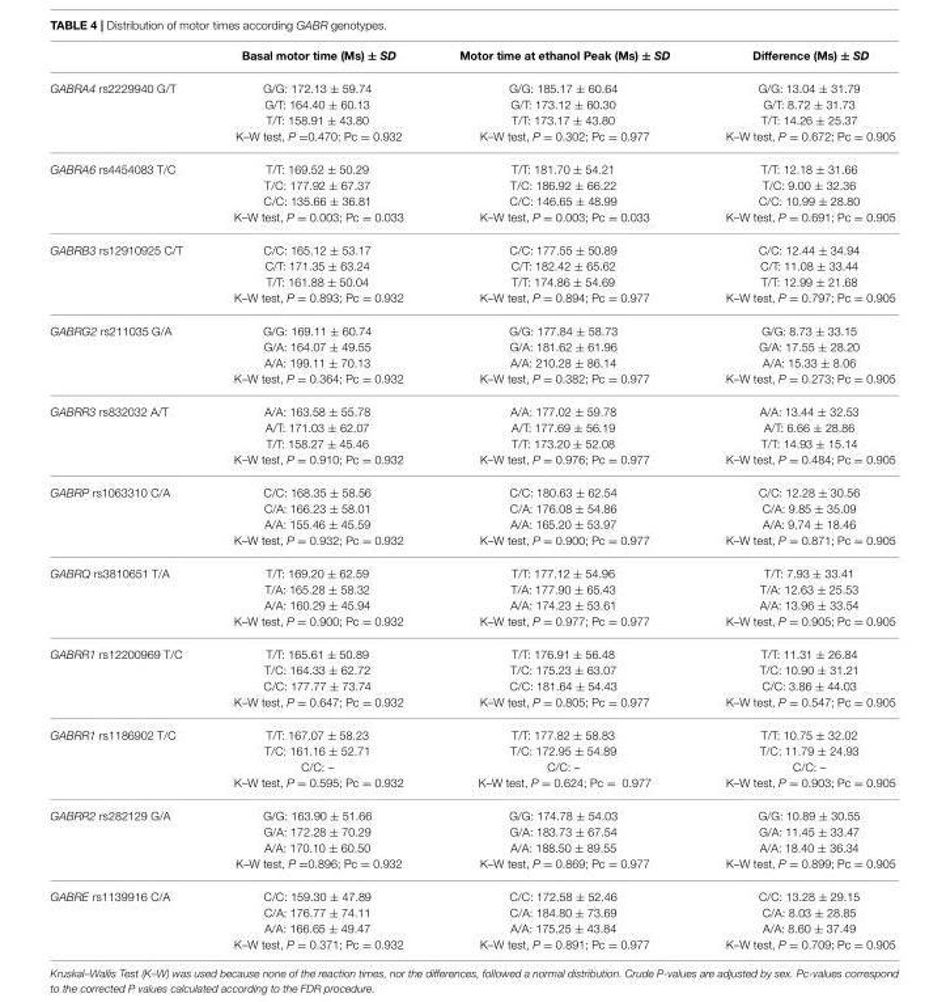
<table><thead><tr><td></td><td>Basal motor time (Ms) ± SD</td><td>Motor time at ethanol Peak (Ms) ± SD</td><td>Difference (Ms) ± SD</td></tr></thead><tbody><tr><td>GABRA4 rs2229940 G/T</td><td>G/G: 172.13 ± 59.74 G/T: 164.40 ± 60.13 T/T: 158.91 ± 43.80 K–W test, P =0.470; Pc = 0.932</td><td>G/G: 185.17 ± 60.64 G/T: 173.12 ± 60.30 T/T: 173.17 ± 43.80 K–W test, P = 0.302; Pc = 0.977</td><td>G/G: 13.04 ± 31.79 G/T: 8.72 ± 31.73 T/T: 14.26 ± 25.37 K–W test, P = 0.672; Pc = 0.905</td></tr><tr><td>GABRA6 rs4454083 T/C</td><td>T/T: 169.52 ± 50.29 T/C: 177.92 ± 67.37 C/C: 135.66 ± 36.81 K–W test, P = 0.003; Pc = 0.033</td><td>T/T: 181.70 ± 54.21 T/C: 186.92 ± 66.22 C/C: 146.65 ± 48.99 K–W test, P = 0.003; Pc = 0.033</td><td>T/T: 12.18 ± 31.66 T/C: 9.00 ± 32.36 C/C: 10.99 ± 28.80 K–W test, P = 0.691; Pc = 0.905</td></tr><tr><td>GABRB3 rs12910925 C/T</td><td>C/C: 165.12 ± 53.17 C/T: 171.35 ± 63.24 T/T: 161.88 ± 50.04 K–W test, P = 0.893; Pc = 0.932</td><td>C/C: 177.55 ± 50.89 C/T: 182.42 ± 65.62 T/T: 174.86 ± 54.69 K–W test, P = 0.894; Pc = 0.977</td><td>C/C: 12.44 ± 34.94 C/T: 11.08 ± 33.44 T/T: 12.99 ± 21.68 K–W test, P = 0.797; Pc = 0.905</td></tr><tr><td>GABRG2 rs211035 G/A</td><td>G/G: 169.11 ± 60.74 G/A: 164.07 ± 49.55 A/A: 199.11 ± 70.13 K–W test, P = 0.364; Pc = 0.932</td><td>G/G: 177.84 ± 58.73 G/A: 181.62 ± 61.96 A/A: 210.28 ± 86.14 K–W test, P = 0.382; Pc = 0.977</td><td>G/G: 8.73 ± 33.15 G/A: 17.55 ± 28.20 A/A: 15.33 ± 8.06 K–W test, P = 0.273; Pc = 0.905</td></tr><tr><td>GABRR3 rs832032 A/T</td><td>A/A: 163.58 ± 55.78 A/T: 171.03 ± 62.07 T/T: 158.27 ± 45.46 K–W test, P = 0.910; Pc = 0.932</td><td>A/A: 177.02 ± 59.78 A/T: 177.69 ± 56.19 T/T: 173.20 ± 52.08 K–W test, P = 0.976; Pc = 0.977</td><td>A/A: 13.44 ± 32.53 A/T: 6.66 ± 28.86 T/T: 14.93 ± 15.14 K–W test, P = 0.484; Pc = 0.905</td></tr><tr><td>GABRP rs1063310 C/A</td><td>C/C: 168.35 ± 58.56 C/A: 166.23 ± 58.01 A/A: 155.46 ± 45.59 K–W test, P = 0.932; Pc = 0.932</td><td>C/C: 180.63 ± 62.54 C/A: 176.08 ± 54.86 A/A: 165.20 ± 53.97 K–W test, P = 0.900; Pc = 0.977</td><td>C/C: 12.28 ± 30.56 C/A: 9.85 ± 35.09 A/A: 9.74 ± 18.46 K–W test, P = 0.871; Pc = 0.905</td></tr><tr><td>GABRQ rs3810651 T/A</td><td>T/T: 169.20 ± 62.59 T/A: 165.28 ± 58.32 A/A: 160.29 ± 45.94 K–W test, P = 0.900; Pc = 0.932</td><td>T/T: 177.12 ± 54.96 T/A: 177.90 ± 65.43 A/A: 174.23 ± 53.61 K–W test, P = 0.977; Pc = 0.977</td><td>T/T: 7.93 ± 33.41 T/A: 12.63 ± 25.53 A/A: 13.96 ± 33.54 K–W test, P = 0.905; Pc = 0.905</td></tr><tr><td>GABRR1 rs12200969 T/C</td><td>T/T: 165.61 ± 50.89 T/C: 164.33 ± 62.72 C/C: 177.77 ± 73.74 K–W test, P = 0.647; Pc = 0.932</td><td>T/T: 176.91 ± 56.48 T/C: 175.23 ± 63.07 C/C: 181.64 ± 54.43 K–W test, P = 0.805; Pc = 0.977</td><td>T/T: 11.31 ± 26.84 T/C: 10.90 ± 31.21 C/C: 3.86 ± 44.03 K–W test, P = 0.547; Pc = 0.905</td></tr><tr><td>GABRR1 rs1186902 T/C</td><td>T/T: 167.07 ± 58.23 T/C: 161.16 ± 52.71 C/C: – K–W test, P = 0.595; Pc = 0.932</td><td>T/T: 177.82 ± 58.83 T/C: 172.95 ± 54.89 C/C: – K–W test, P = 0.624; Pc = 0.977</td><td>T/T: 10.75 ± 32.02 T/C: 11.79 ± 24.93 C/C: – K–W test, P = 0.903; Pc = 0.905</td></tr><tr><td>GABRR2 rs282129 G/A</td><td>G/G: 163.90 ± 51.66 G/A: 172.28 ± 70.29 A/A: 170.10 ± 60.50 K–W test, P =0.896; Pc = 0.932</td><td>G/G: 174.78 ± 54.03 G/A: 183.73 ± 67.54 A/A: 188.50 ± 89.55 K–W test, P = 0.869; Pc = 0.977</td><td>G/G: 10.89 ± 30.55 G/A: 11.45 ± 33.47 A/A: 18.40 ± 36.34 K–W test, P = 0.899; Pc = 0.905</td></tr><tr><td>GABRE rs1139916 C/A</td><td>C/C: 159.30 ± 47.89 C/A: 176.77 ± 74.11 A/A: 166.65 ± 49.47 K–W test, P = 0.371; Pc = 0.932</td><td>C/C: 172.58 ± 52.46 C/A: 184.80 ± 73.69 A/A: 175.25 ± 43.84 K–W test, P = 0.891; Pc = 0.977</td><td>C/C: 13.28 ± 29.15 C/A: 8.03 ± 28.85 A/A: 8.60 ± 37.49 K–W test, P = 0.709; Pc = 0.905</td></tr></tbody></table>